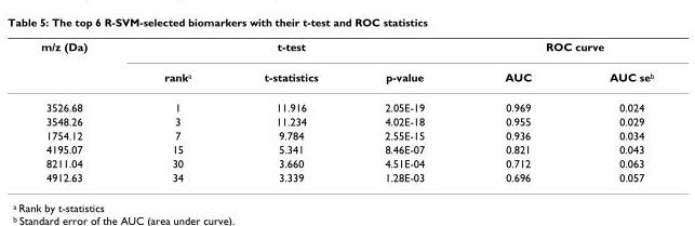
<table><thead><tr><td rowspan="2">m/z (Da)</td><td colspan="3">t-test</td><td colspan="2">ROC curve</td></tr><tr><td>ranka</td><td>t-statistics</td><td>p-value</td><td>AUC</td><td>AUC seb</td></tr></thead><tbody><tr><td>3526.68</td><td>1</td><td>11.916</td><td>2.05E-19</td><td>0.969</td><td>0.024</td></tr><tr><td>3548.26</td><td>3</td><td>11.234</td><td>4.02E-18</td><td>0.955</td><td>0.029</td></tr><tr><td>1754.12</td><td>7</td><td>9.784</td><td>2.55E-15</td><td>0.936</td><td>0.034</td></tr><tr><td>4195.07</td><td>15</td><td>5.341</td><td>8.46E-07</td><td>0.821</td><td>0.043</td></tr><tr><td>8211.04</td><td>30</td><td>3.660</td><td>4.51E-04</td><td>0.712</td><td>0.063</td></tr><tr><td>4912.63</td><td>34</td><td>3.339</td><td>1.28E-03</td><td>0.696</td><td>0.057</td></tr></tbody></table>